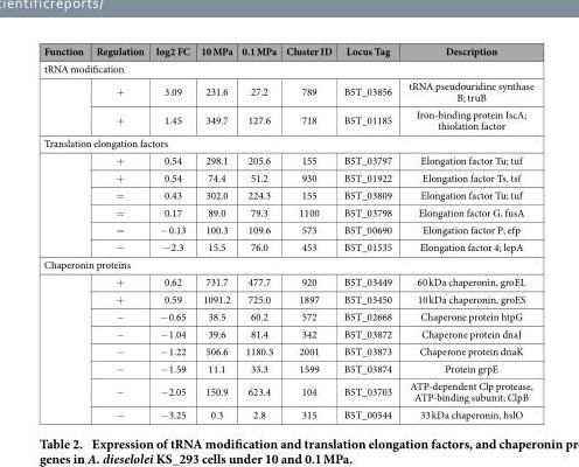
<table><thead><tr><td>Function</td><td>Regulation</td><td>log2 FC</td><td>10 MPa</td><td>0.1 MPa</td><td>Cluster ID</td><td>Locus Tag</td><td>Description</td></tr></thead><tbody><tr><td colspan="8">tRNA modification</td></tr><tr><td rowspan="2"></td><td>+</td><td>3.09</td><td>231.6</td><td>27.2</td><td>789</td><td>B5T_03856</td><td>tRNA pseudouridine synthase B; truB</td></tr><tr><td>+</td><td>1.45</td><td>349.7</td><td>127.6</td><td>718</td><td>B5T_01185</td><td>Iron-binding protein IscA; thiolation factor</td></tr><tr><td colspan="8">Translation elongation factors</td></tr><tr><td rowspan="6"></td><td>+</td><td>0.54</td><td>298.1</td><td>205.6</td><td>155</td><td>B5T_03797</td><td>Elongation factor Tu; tuf</td></tr><tr><td>+</td><td>0.54</td><td>74.4</td><td>51.2</td><td>930</td><td>B5T_01922</td><td>Elongation factor Ts, tsf</td></tr><tr><td>=</td><td>0.43</td><td>302.0</td><td>224.3</td><td>155</td><td>B5T_03809</td><td>Elongation factor Tu; tuf</td></tr><tr><td>=</td><td>0.17</td><td>89.0</td><td>79.3</td><td>1100</td><td>B5T_03798</td><td>Elongation factor G, fusA</td></tr><tr><td>=</td><td>− 0.13</td><td>100.3</td><td>109.6</td><td>573</td><td>B5T_00690</td><td>Elongation factor P; efp</td></tr><tr><td>−</td><td>− 2.3</td><td>15.5</td><td>76.0</td><td>453</td><td>B5T_01535</td><td>Elongation factor 4; lepA</td></tr><tr><td colspan="8">Chaperonin proteins</td></tr><tr><td rowspan="8"></td><td>+</td><td>0.62</td><td>731.7</td><td>477.7</td><td>920</td><td>B5T_03449</td><td>60 kDa chaperonin, groEL</td></tr><tr><td>+</td><td>0.59</td><td>1091.2</td><td>725.0</td><td>1897</td><td>B5T_03450</td><td>10 kDa chaperonin, groES</td></tr><tr><td>−</td><td>− 0.65</td><td>38.5</td><td>60.2</td><td>572</td><td>B5T_02668</td><td>Chaperone protein htpG</td></tr><tr><td>−</td><td>− 1.04</td><td>39.6</td><td>81.4</td><td>342</td><td>B5T_03872</td><td>Chaperone protein dnaJ</td></tr><tr><td>−</td><td>− 1.22</td><td>506.6</td><td>1180.5</td><td>2001</td><td>B5T_03873</td><td>Chaperone protein dnaK</td></tr><tr><td>−</td><td>− 1.59</td><td>11.1</td><td>33.3</td><td>1599</td><td>B5T_03874</td><td>Protein grpE</td></tr><tr><td>−</td><td>− 2.05</td><td>150.9</td><td>623.4</td><td>104</td><td>B5T_03703</td><td>ATP-dependent Clp protease, ATP-binding subunit; ClpB</td></tr><tr><td>−</td><td>− 3.25</td><td>0.3</td><td>2.8</td><td>315</td><td>B5T_00544</td><td>33 kDa chaperonin, hslO</td></tr></tbody></table>